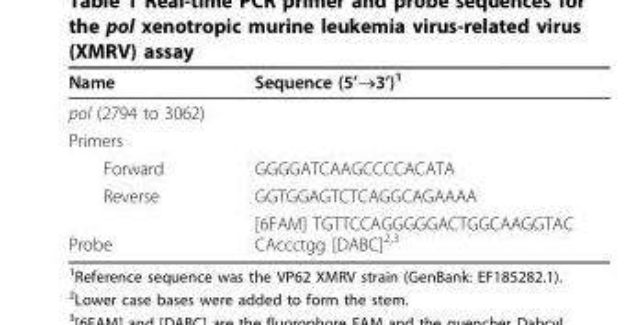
<table><thead><tr><td>Name</td><td>Sequence (5’→3’)<sup>1</sup></td></tr></thead><tbody><tr><td colspan="2">pol (2794 to 3062)</td></tr><tr><td colspan="2">Primers</td></tr><tr><td>Forward</td><td>GGGGATCAAGCCCCACATA</td></tr><tr><td>Reverse</td><td>GGTGGAGTCTCAGGCAGAAAA</td></tr><tr><td>Probe</td><td>[6FAM] TGTTCCAGGGGGACTGGCAAGGTAC CAccctgg [DABC]<sup>2,3</sup></td></tr></tbody></table>